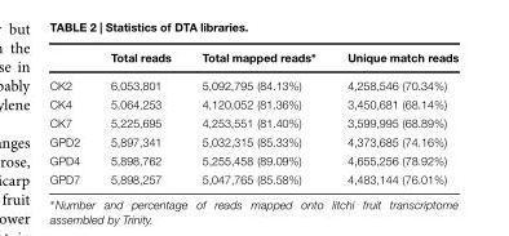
<table><thead><tr><td></td><td>Total reads</td><td>Total mapped reads∗</td><td>Unique match reads</td></tr></thead><tbody><tr><td>CK2</td><td>6,053,801</td><td>5,092,795 (84.13%)</td><td>4,258,546 (70.34%)</td></tr><tr><td>CK4</td><td>5,064,253</td><td>4,120,052 (81.36%)</td><td>3,450,681 (68.14%)</td></tr><tr><td>CK7</td><td>5,225,695</td><td>4,253,551 (81.40%)</td><td>3,599,995 (68.89%)</td></tr><tr><td>GPD2</td><td>5,897,341</td><td>5,032,315 (85.33%)</td><td>4,373,685 (74.16%)</td></tr><tr><td>GPD4</td><td>5,898,762</td><td>5,255,458 (89.09%)</td><td>4,655,256 (78.92%)</td></tr><tr><td>GPD7</td><td>5,898,257</td><td>5,047,765 (85.58%)</td><td>4,483,144 (76.01%)</td></tr></tbody></table>